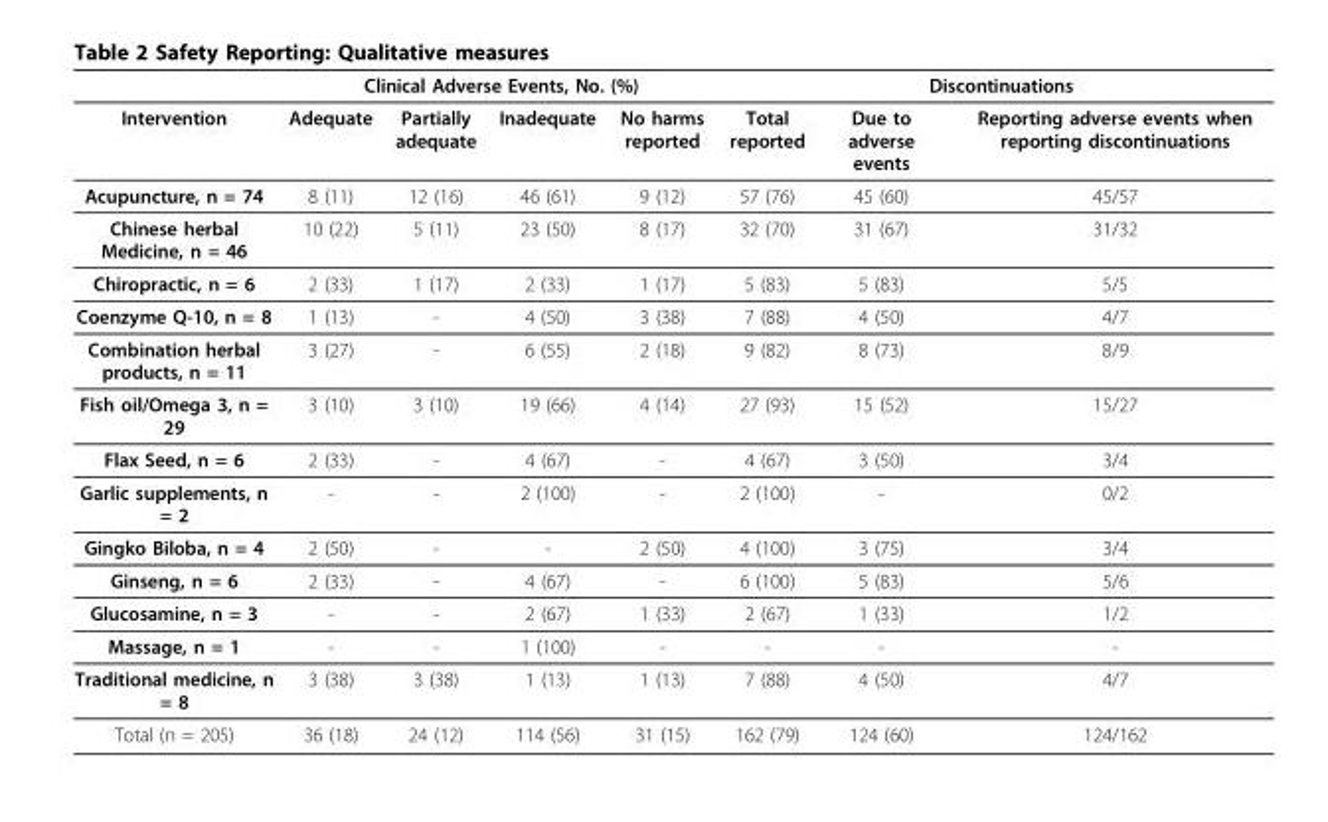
<table><thead><tr><td rowspan="2">Intervention</td><td colspan="4">Clinical Adverse Events, No. (%)</td><td colspan="3">Discontinuations</td></tr><tr><td>Adequate</td><td>Partially adequate</td><td>Inadequate</td><td>No harms reported</td><td>Total reported</td><td>Due to adverse events</td><td>Reporting adverse events when reporting discontinuations</td></tr></thead><tbody><tr><td>Acupuncture, n = 74</td><td>8 (11)</td><td>12 (16)</td><td>46 (61)</td><td>9 (12)</td><td>57 (76)</td><td>45 (60)</td><td>45/57</td></tr><tr><td>Chinese herbal Medicine, n = 46</td><td>10 (22)</td><td>5 (11)</td><td>23 (50)</td><td>8 (17)</td><td>32 (70)</td><td>31 (67)</td><td>31/32</td></tr><tr><td>Chiropractic, n = 6</td><td>2 (33)</td><td>1 (17)</td><td>2 (33)</td><td>1 (17)</td><td>5 (83)</td><td>5 (83)</td><td>5/5</td></tr><tr><td>Coenzyme Q-10, n = 8</td><td>1 (13)</td><td>-</td><td>4 (50)</td><td>3 (38)</td><td>7 (88)</td><td>4 (50)</td><td>4/7</td></tr><tr><td>Combination herbal products, n = 11</td><td>3 (27)</td><td>-</td><td>6 (55)</td><td>2 (18)</td><td>9 (82)</td><td>8 (73)</td><td>8/9</td></tr><tr><td>Fish oil/Omega 3, n = 29</td><td>3 (10)</td><td>3 (10)</td><td>19 (66)</td><td>4 (14)</td><td>27 (93)</td><td>15 (52)</td><td>15/27</td></tr><tr><td>Flax Seed, n = 6</td><td>2 (33)</td><td>-</td><td>4 (67)</td><td>-</td><td>4 (67)</td><td>3 (50)</td><td>3/4</td></tr><tr><td>Garlic supplements, n = 2</td><td>-</td><td>-</td><td>2 (100)</td><td>-</td><td>2 (100)</td><td>-</td><td>0/2</td></tr><tr><td>Gingko Biloba, n = 4</td><td>2 (50)</td><td>-</td><td>-</td><td>2 (50)</td><td>4 (100)</td><td>3 (75)</td><td>3/4</td></tr><tr><td>Ginseng, n = 6</td><td>2 (33)</td><td>-</td><td>4 (67)</td><td>-</td><td>6 (100)</td><td>5 (83)</td><td>5/6</td></tr><tr><td>Glucosamine, n = 3</td><td>-</td><td>-</td><td>2 (67)</td><td>1 (33)</td><td>2 (67)</td><td>1 (33)</td><td>1/2</td></tr><tr><td>Massage, n = 1</td><td>-</td><td>-</td><td>1 (100)</td><td>-</td><td>-</td><td>-</td><td>-</td></tr><tr><td>Traditional medicine, n = 8</td><td>3 (38)</td><td>3 (38)</td><td>1 (13)</td><td>1 (13)</td><td>7 (88)</td><td>4 (50)</td><td>4/7</td></tr><tr><td>Total (n = 205)</td><td>36 (18)</td><td>24 (12)</td><td>114 (56)</td><td>31 (15)</td><td>162 (79)</td><td>124 (60)</td><td>124/162</td></tr></tbody></table>